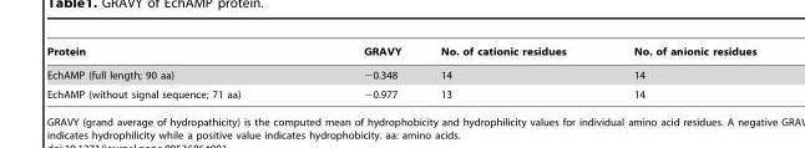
<table><thead><tr><td>Protein</td><td>GRAVY</td><td>No. of cationic residues</td><td>No. of anionic residues</td></tr></thead><tbody><tr><td>EchAMP (full length; 90 aa)</td><td>−0.348</td><td>14</td><td>14</td></tr><tr><td>EchAMP (without signal sequence; 71 aa)</td><td>−0.977</td><td>13</td><td>14</td></tr></tbody></table>